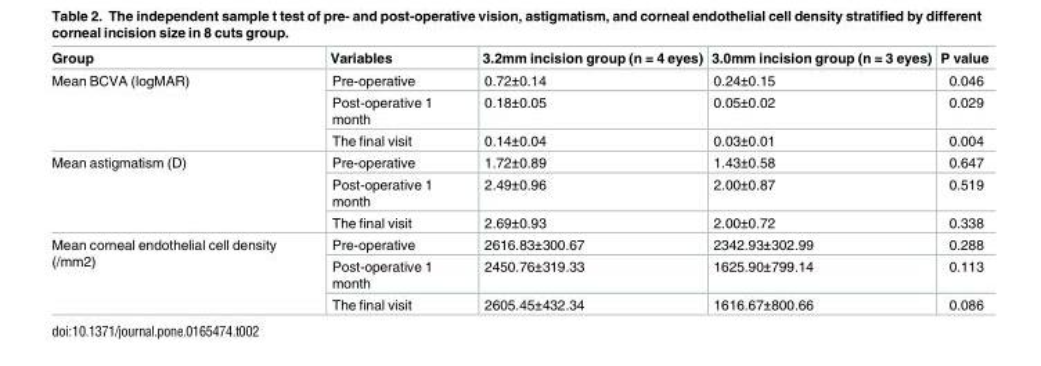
<table><thead><tr><td>Group</td><td>Variables</td><td>3.2mm incision group (n = 4 eyes)</td><td>3.0mm incision group (n = 3 eyes)</td><td>P value</td></tr></thead><tbody><tr><td rowspan="3">Mean BCVA (logMAR)</td><td>Pre-operative</td><td>0.72±0.14</td><td>0.24±0.15</td><td>0.046</td></tr><tr><td>Post-operative 1 month</td><td>0.18±0.05</td><td>0.05±0.02</td><td>0.029</td></tr><tr><td>The final visit</td><td>0.14±0.04</td><td>0.03±0.01</td><td>0.004</td></tr><tr><td rowspan="3">Mean astigmatism (D)</td><td>Pre-operative</td><td>1.72±0.89</td><td>1.43±0.58</td><td>0.647</td></tr><tr><td>Post-operative 1 month</td><td>2.49±0.96</td><td>2.00±0.87</td><td>0.519</td></tr><tr><td>The final visit</td><td>2.69±0.93</td><td>2.00±0.72</td><td>0.338</td></tr><tr><td rowspan="3">Mean corneal endothelial cell density (/mm2)</td><td>Pre-operative</td><td>2616.83±300.67</td><td>2342.93±302.99</td><td>0.288</td></tr><tr><td>Post-operative 1 month</td><td>2450.76±319.33</td><td>1625.90±799.14</td><td>0.113</td></tr><tr><td>The final visit</td><td>2605.45±432.34</td><td>1616.67±800.66</td><td>0.086</td></tr></tbody></table>